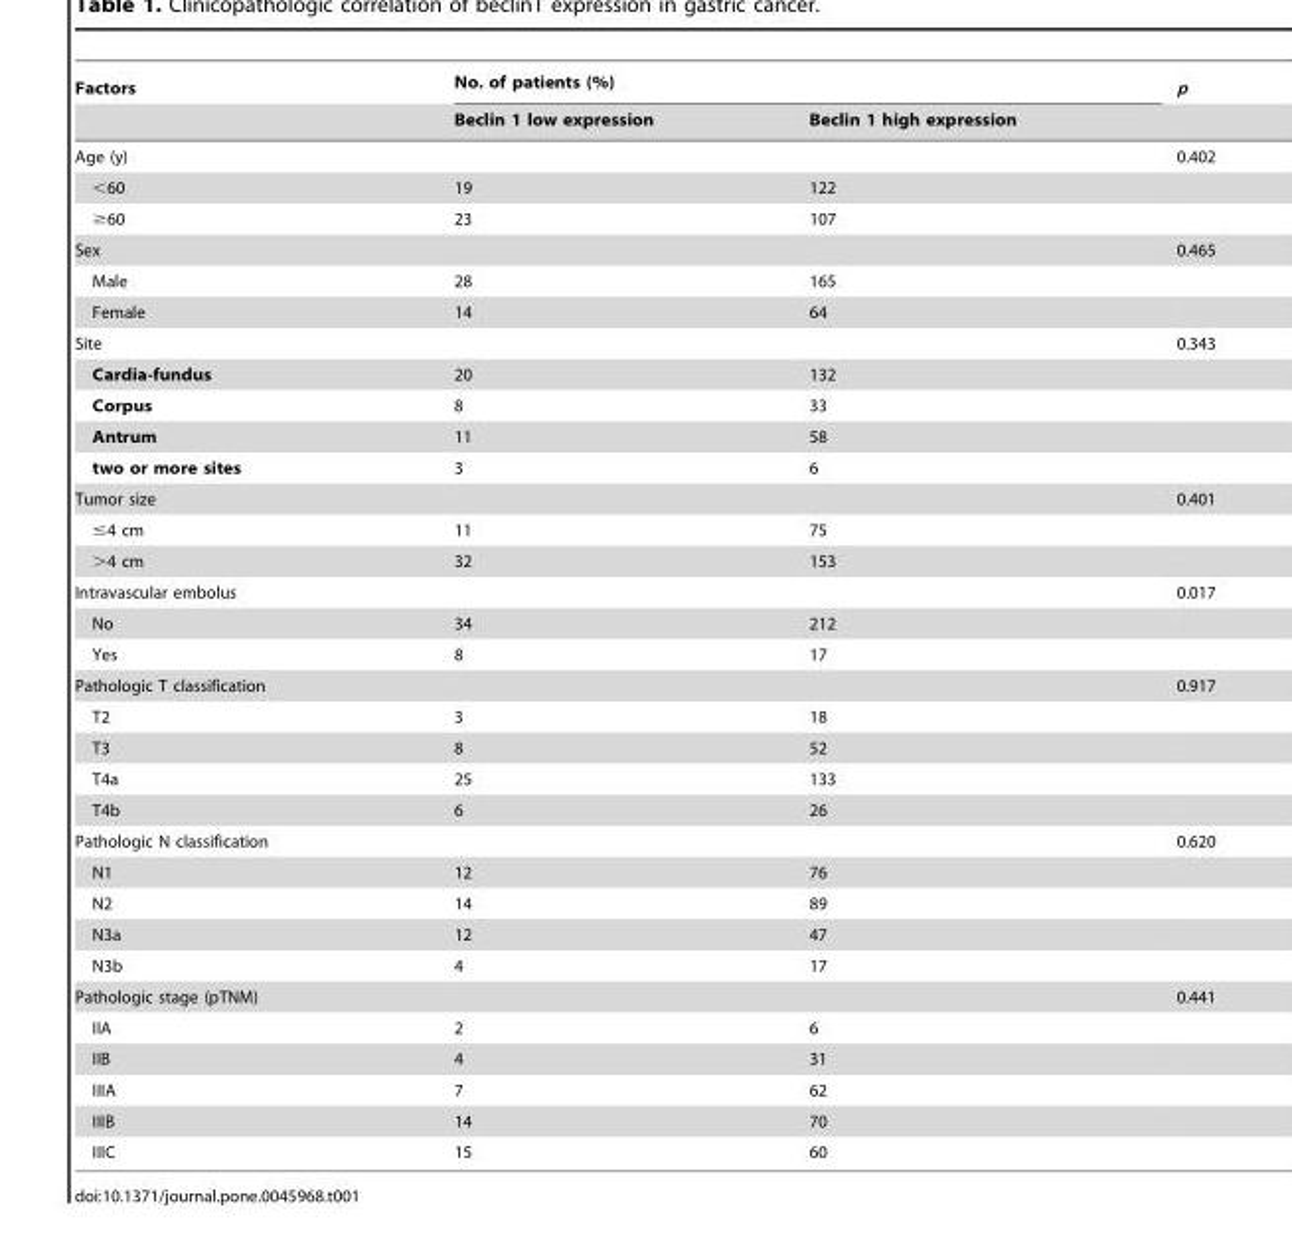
<table><thead><tr><td rowspan="2">Factors</td><td colspan="2">No. of patients (%)</td><td rowspan="2">p</td></tr><tr><td>Beclin 1 low expression</td><td>Beclin 1 high expression</td></tr></thead><tbody><tr><td>Age (y)</td><td></td><td></td><td>0.402</td></tr><tr><td>&lt;60</td><td>19</td><td>122</td><td></td></tr><tr><td>≥60</td><td>23</td><td>107</td><td></td></tr><tr><td>Sex</td><td></td><td></td><td>0.465</td></tr><tr><td>Male</td><td>28</td><td>165</td><td></td></tr><tr><td>Female</td><td>14</td><td>64</td><td></td></tr><tr><td>Site</td><td></td><td></td><td>0.343</td></tr><tr><td>Cardia-fundus</td><td>20</td><td>132</td><td></td></tr><tr><td>Corpus</td><td>8</td><td>33</td><td></td></tr><tr><td>Antrum</td><td>11</td><td>58</td><td></td></tr><tr><td>two or more sites</td><td>3</td><td>6</td><td></td></tr><tr><td>Tumor size</td><td></td><td></td><td>0.401</td></tr><tr><td>≤4 cm</td><td>11</td><td>75</td><td></td></tr><tr><td>&gt;4 cm</td><td>32</td><td>153</td><td></td></tr><tr><td>Intravascular embolus</td><td></td><td></td><td>0.017</td></tr><tr><td>No</td><td>34</td><td>212</td><td></td></tr><tr><td>Yes</td><td>8</td><td>17</td><td></td></tr><tr><td>Pathologic T classification</td><td></td><td></td><td>0.917</td></tr><tr><td>T2</td><td>3</td><td>18</td><td></td></tr><tr><td>T3</td><td>8</td><td>52</td><td></td></tr><tr><td>T4a</td><td>25</td><td>133</td><td></td></tr><tr><td>T4b</td><td>6</td><td>26</td><td></td></tr><tr><td>Pathologic N classification</td><td></td><td></td><td>0.620</td></tr><tr><td>N1</td><td>12</td><td>76</td><td></td></tr><tr><td>N2</td><td>14</td><td>89</td><td></td></tr><tr><td>N3a</td><td>12</td><td>47</td><td></td></tr><tr><td>N3b</td><td>4</td><td>17</td><td></td></tr><tr><td>Pathologic stage (pTNM)</td><td></td><td></td><td>0.441</td></tr><tr><td>IIA</td><td>2</td><td>6</td><td></td></tr><tr><td>IIB</td><td>4</td><td>31</td><td></td></tr><tr><td>IIIA</td><td>7</td><td>62</td><td></td></tr><tr><td>IIIB</td><td>14</td><td>70</td><td></td></tr><tr><td>IIIC</td><td>15</td><td>60</td><td></td></tr></tbody></table>